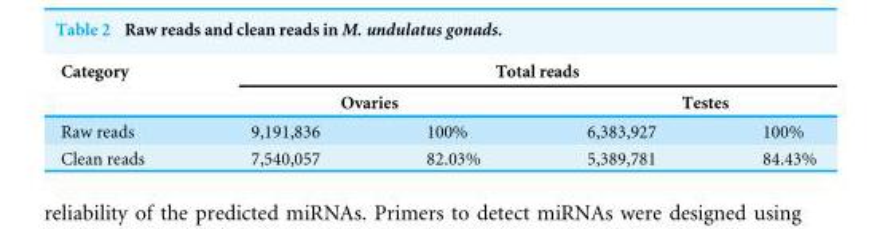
<table><thead><tr><td rowspan="3">Category Raw reads</td><td colspan="4">Total reads</td></tr><tr><td colspan="2">Ovaries</td><td colspan="2">Testes</td></tr><tr><td>9,191,836</td><td>100%</td><td>6,383,927</td><td>100%</td></tr></thead><tbody><tr><td>Clean reads</td><td>7,540,057</td><td>82.03%</td><td>5,389,781</td><td>84.43%</td></tr></tbody></table>